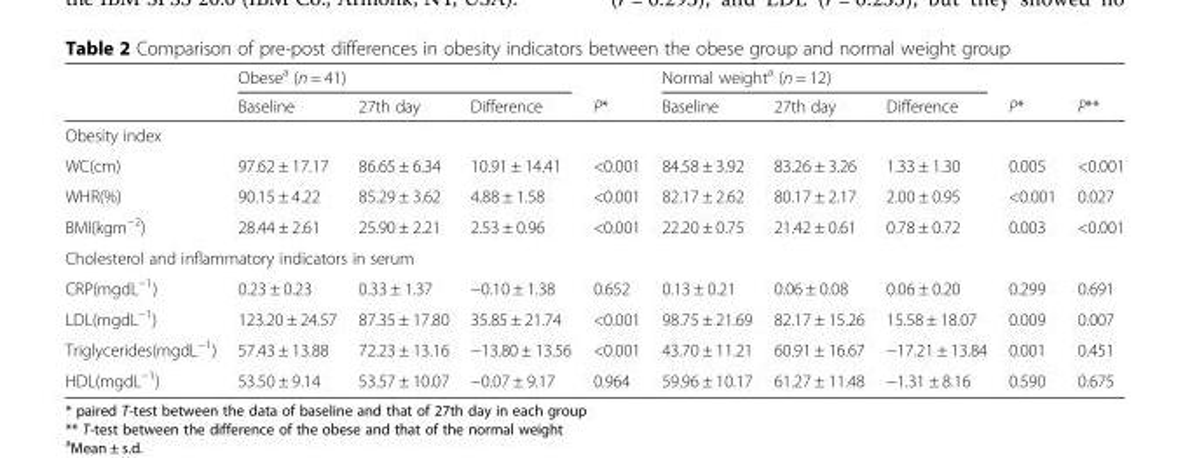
<table><thead><tr><td rowspan="2"></td><td colspan="3">Obese<sup>a</sup> (n = 41)</td><td rowspan="2">P*</td><td colspan="3">Normal weight<sup>a</sup> (n = 12)</td><td rowspan="2">P*</td><td rowspan="2">P**</td></tr><tr><td>Baseline</td><td>27th day</td><td>Difference</td><td>Baseline</td><td>27th day</td><td>Difference</td></tr></thead><tbody><tr><td colspan="10">Obesity index</td></tr><tr><td>WC(cm)</td><td>97.62 ± 17.17</td><td>86.65 ± 6.34</td><td>10.91 ± 14.41</td><td>&lt;0.001</td><td>84.58 ± 3.92</td><td>83.26 ± 3.26</td><td>1.33 ± 1.30</td><td>0.005</td><td>&lt;0.001</td></tr><tr><td>WHR(%)</td><td>90.15 ± 4.22</td><td>85.29 ± 3.62</td><td>4.88 ± 1.58</td><td>&lt;0.001</td><td>82.17 ± 2.62</td><td>80.17 ± 2.17</td><td>2.00 ± 0.95</td><td>&lt;0.001</td><td>0.027</td></tr><tr><td>BMI(kgm<sup>−2</sup>)</td><td>28.44 ± 2.61</td><td>25.90 ± 2.21</td><td>2.53 ± 0.96</td><td>&lt;0.001</td><td>22.20 ± 0.75</td><td>21.42 ± 0.61</td><td>0.78 ± 0.72</td><td>0.003</td><td>&lt;0.001</td></tr><tr><td colspan="10">Cholesterol and inflammatory indicators in serum</td></tr><tr><td>CRP(mgdL<sup>−1</sup>)</td><td>0.23 ± 0.23</td><td>0.33 ± 1.37</td><td>−0.10 ± 1.38</td><td>0.652</td><td>0.13 ± 0.21</td><td>0.06 ± 0.08</td><td>0.06 ± 0.20</td><td>0.299</td><td>0.691</td></tr><tr><td>LDL(mgdL<sup>−1</sup>)</td><td>123.20 ± 24.57</td><td>87.35 ± 17.80</td><td>35.85 ± 21.74</td><td>&lt;0.001</td><td>98.75 ± 21.69</td><td>82.17 ± 15.26</td><td>15.58 ± 18.07</td><td>0.009</td><td>0.007</td></tr><tr><td>Triglycerides(mgdL<sup>−1</sup>)</td><td>57.43 ± 13.88</td><td>72.23 ± 13.16</td><td>−13.80 ± 13.56</td><td>&lt;0.001</td><td>43.70 ± 11.21</td><td>60.91 ± 16.67</td><td>−17.21 ± 13.84</td><td>0.001</td><td>0.451</td></tr><tr><td>HDL(mgdL<sup>−1</sup>)</td><td>53.50 ± 9.14</td><td>53.57 ± 10.07</td><td>−0.07 ± 9.17</td><td>0.964</td><td>59.96 ± 10.17</td><td>61.27 ± 11.48</td><td>−1.31 ± 8.16</td><td>0.590</td><td>0.675</td></tr></tbody></table>